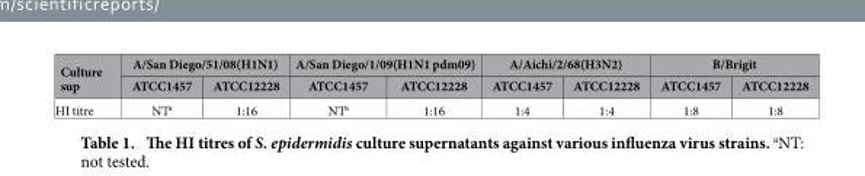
<table><thead><tr><td rowspan="2">Culture sup</td><td colspan="2">A/San Diego/51/08(H1N1)</td><td colspan="2">A/San Diego/1/09(H1N1 pdm09)</td><td colspan="2">A/Aichi/2/68(H3N2)</td><td colspan="2">B/Brigit</td></tr><tr><td>ATCC1457</td><td>ATCC12228</td><td>ATCC1457</td><td>ATCC12228</td><td>ATCC1457</td><td>ATCC12228</td><td>ATCC1457</td><td>ATCC12228</td></tr></thead><tbody><tr><td>HI titre</td><td>NT<sup>a</sup></td><td>1:16</td><td>NT<sup>a</sup></td><td>1:16</td><td>1:4</td><td>1:4</td><td>1:8</td><td>1:8</td></tr></tbody></table>